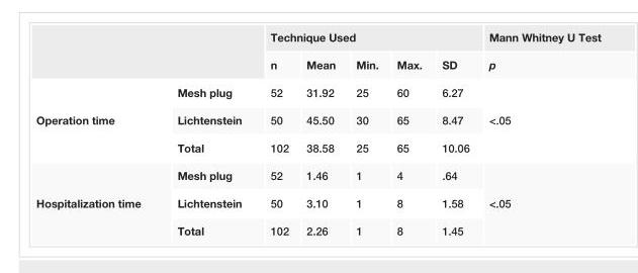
<table><thead><tr><td rowspan="2"></td><td rowspan="2"></td><td colspan="5">Technique Used</td><td rowspan="2">Mann Whitney U Test p</td></tr><tr><td>n</td><td>Mean</td><td>Min.</td><td>Max.</td><td>SD</td></tr></thead><tbody><tr><td rowspan="3">Operation time</td><td>Mesh plug</td><td>52</td><td>31.92</td><td>25</td><td>60</td><td>6.27</td><td rowspan="3">&lt;.05</td></tr><tr><td>Lichtenstein</td><td>50</td><td>45.50</td><td>30</td><td>65</td><td>8.47</td></tr><tr><td>Total</td><td>102</td><td>38.58</td><td>25</td><td>65</td><td>10.06</td></tr><tr><td rowspan="3">Hospitalization time</td><td>Mesh plug</td><td>52</td><td>1.46</td><td>1</td><td>4</td><td>.64</td><td rowspan="3">&lt;.05</td></tr><tr><td>Lichtenstein</td><td>50</td><td>3.10</td><td>1</td><td>8</td><td>1.58</td></tr><tr><td>Total</td><td>102</td><td>2.26</td><td>1</td><td>8</td><td>1.45</td></tr></tbody></table>